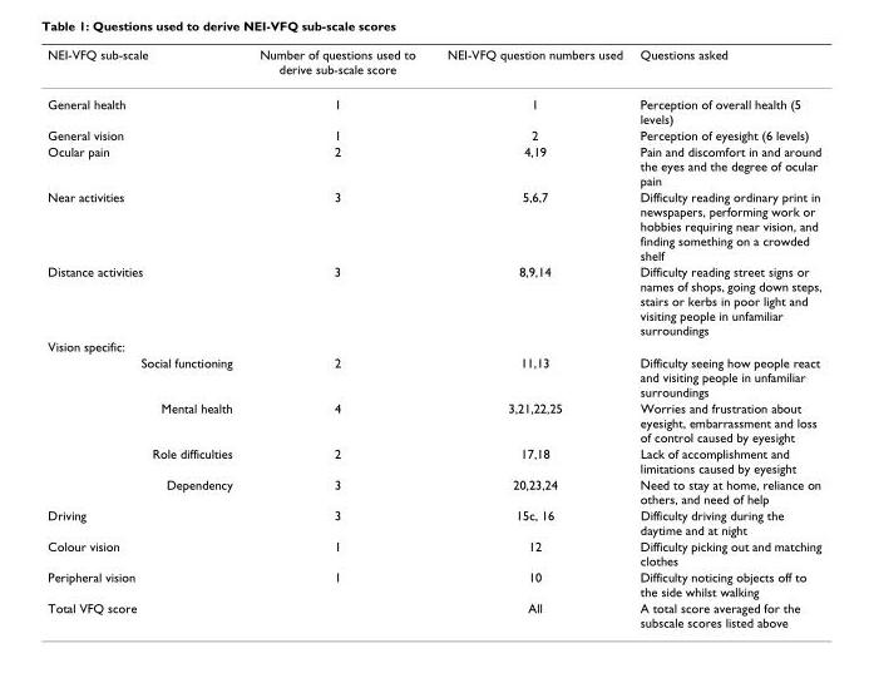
<table><thead><tr><td>NEI-VFQ sub-scale</td><td>Number of questions used to derive sub-scale score</td><td>NEI-VFQ question numbers used</td><td>Questions asked</td></tr></thead><tbody><tr><td>General health</td><td>1</td><td>1</td><td>Perception of overall health (5 levels)</td></tr><tr><td>General vision</td><td>1</td><td>2</td><td>Perception of eyesight (6 levels)</td></tr><tr><td>Ocular pain</td><td>2</td><td>4,19</td><td>Pain and discomfort in and around the eyes and the degree of ocular pain</td></tr><tr><td>Near activities</td><td>3</td><td>5,6,7</td><td>Difficulty reading ordinary print in newspapers, performing work or hobbies requiring near vision, and finding something on a crowded shelf</td></tr><tr><td>Distance activities</td><td>3</td><td>8,9,14</td><td>Difficulty reading street signs or names of shops, going down steps, stairs or kerbs in poor light and visiting people in unfamiliar surroundings</td></tr><tr><td colspan="4">Vision specific:</td></tr><tr><td>Social functioning</td><td>2</td><td>11,13</td><td>Difficulty seeing how people react and visiting people in unfamiliar surroundings</td></tr><tr><td>Mental health</td><td>4</td><td>3,21,22,25</td><td>Worries and frustration about eyesight, embarrassment and loss of control caused by eyesight</td></tr><tr><td>Role difficulties</td><td>2</td><td>17,18</td><td>Lack of accomplishment and limitations caused by eyesight</td></tr><tr><td>Dependency</td><td>3</td><td>20,23,24</td><td>Need to stay at home, reliance on others, and need of help</td></tr><tr><td>Driving</td><td>3</td><td>15c, 16</td><td>Difficulty driving during the daytime and at night</td></tr><tr><td>Colour vision</td><td>1</td><td>12</td><td>Difficulty picking out and matching clothes</td></tr><tr><td>Peripheral vision</td><td>1</td><td>10</td><td>Difficulty noticing objects off to the side whilst walking</td></tr><tr><td>Total VFQ score</td><td></td><td>All</td><td>A total score averaged for the subscale scores listed above</td></tr></tbody></table>